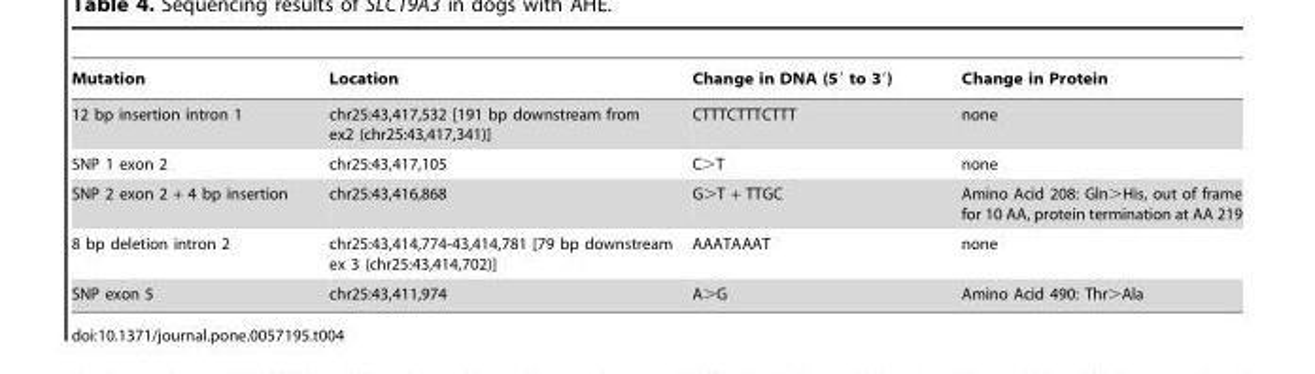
<table><thead><tr><td>Mutation</td><td>Location</td><td>Change in DNA (5′ to 3′)</td><td>Change in Protein</td></tr></thead><tbody><tr><td>12 bp insertion intron 1</td><td>chr25:43,417,532 [191 bp downstream from ex2 (chr25:43,417,341)]</td><td>CTTTCTTTCTTT</td><td>none</td></tr><tr><td>SNP 1 exon 2</td><td>chr25:43,417,105</td><td>C&gt;T</td><td>none</td></tr><tr><td>SNP 2 exon 2 + 4 bp insertion</td><td>chr25:43,416,868</td><td>G&gt;T + TTGC</td><td>Amino Acid 208: Gln&gt;His, out of frame for 10 AA, protein termination at AA 219</td></tr><tr><td>8 bp deletion intron 2</td><td>chr25:43,414,774-43,414,781 [79 bp downstream ex 3 (chr25:43,414,702)]</td><td>AAATAAAT</td><td>none</td></tr><tr><td>SNP exon 5</td><td>chr25:43,411,974</td><td>A&gt;G</td><td>Amino Acid 490: Thr&gt;Ala</td></tr></tbody></table>